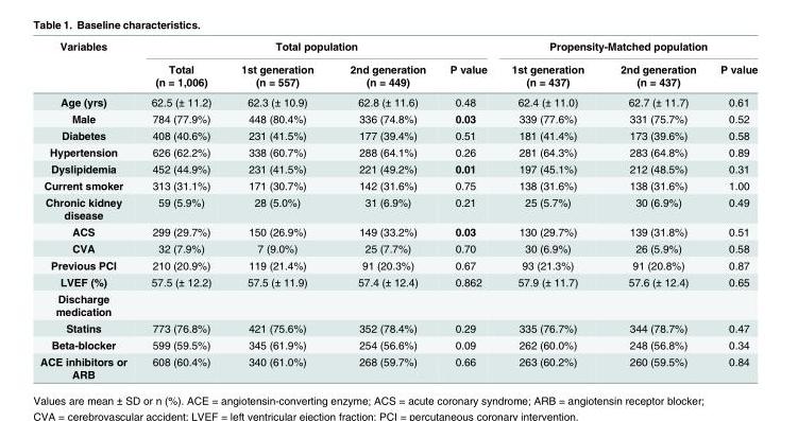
<table><thead><tr><td rowspan="2">Variables</td><td colspan="4">Total population</td><td colspan="3">Propensity-Matched population</td></tr><tr><td>Total (n = 1,006)</td><td>1st generation (n = 557)</td><td>2nd generation (n = 449)</td><td>P value</td><td>1st generation (n = 437)</td><td>2nd generation (n = 437)</td><td>P value</td></tr></thead><tbody><tr><td>Age (yrs)</td><td>62.5 (± 11.2)</td><td>62.3 (± 10.9)</td><td>62.8 (± 11.6)</td><td>0.48</td><td>62.4 (± 11.0)</td><td>62.7 (± 11.7)</td><td>0.61</td></tr><tr><td>Male</td><td>784 (77.9%)</td><td>448 (80.4%)</td><td>336 (74.8%)</td><td>0.03</td><td>339 (77.6%)</td><td>331 (75.7%)</td><td>0.52</td></tr><tr><td>Diabetes</td><td>408 (40.6%)</td><td>231 (41.5%)</td><td>177 (39.4%)</td><td>0.51</td><td>181 (41.4%)</td><td>173 (39.6%)</td><td>0.58</td></tr><tr><td>Hypertension</td><td>626 (62.2%)</td><td>338 (60.7%)</td><td>288 (64.1%)</td><td>0.26</td><td>281 (64.3%)</td><td>283 (64.8%)</td><td>0.89</td></tr><tr><td>Dyslipidemia</td><td>452 (44.9%)</td><td>231 (41.5%)</td><td>221 (49.2%)</td><td>0.01</td><td>197 (45.1%)</td><td>212 (48.5%)</td><td>0.31</td></tr><tr><td>Current smoker</td><td>313 (31.1%)</td><td>171 (30.7%)</td><td>142 (31.6%)</td><td>0.75</td><td>138 (31.6%)</td><td>138 (31.6%)</td><td>1.00</td></tr><tr><td>Chronic kidney disease</td><td>59 (5.9%)</td><td>28 (5.0%)</td><td>31 (6.9%)</td><td>0.21</td><td>25 (5.7%)</td><td>30 (6.9%)</td><td>0.49</td></tr><tr><td>ACS</td><td>299 (29.7%)</td><td>150 (26.9%)</td><td>149 (33.2%)</td><td>0.03</td><td>130 (29.7%)</td><td>139 (31.8%)</td><td>0.51</td></tr><tr><td>CVA</td><td>32 (7.9%)</td><td>7 (9.0%)</td><td>25 (7.7%)</td><td>0.70</td><td>30 (6.9%)</td><td>26 (5.9%)</td><td>0.58</td></tr><tr><td>Previous PCI</td><td>210 (20.9%)</td><td>119 (21.4%)</td><td>91 (20.3%)</td><td>0.67</td><td>93 (21.3%)</td><td>91 (20.8%)</td><td>0.87</td></tr><tr><td>LVEF (%)</td><td>57.5 (± 12.2)</td><td>57.5 (± 11.9)</td><td>57.4 (± 12.4)</td><td>0.862</td><td>57.9 (± 11.7)</td><td>57.6 (± 12.4)</td><td>0.65</td></tr><tr><td colspan="8">Discharge medication</td></tr><tr><td>Statins</td><td>773 (76.8%)</td><td>421 (75.6%)</td><td>352 (78.4%)</td><td>0.29</td><td>335 (76.7%)</td><td>344 (78.7%)</td><td>0.47</td></tr><tr><td>Beta-blocker</td><td>599 (59.5%)</td><td>345 (61.9%)</td><td>254 (56.6%)</td><td>0.09</td><td>262 (60.0%)</td><td>248 (56.8%)</td><td>0.34</td></tr><tr><td>ACE inhibitors or ARB</td><td>608 (60.4%)</td><td>340 (61.0%)</td><td>268 (59.7%)</td><td>0.66</td><td>263 (60.2%)</td><td>260 (59.5%)</td><td>0.84</td></tr></tbody></table>